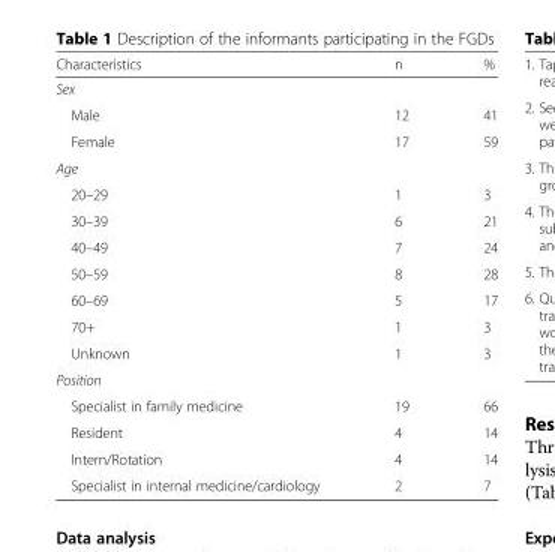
<table><thead><tr><td>Characteristics</td><td>n</td><td>%</td></tr></thead><tbody><tr><td colspan="3">Sex</td></tr><tr><td>Male</td><td>12</td><td>41</td></tr><tr><td>Female</td><td>17</td><td>59</td></tr><tr><td colspan="3">Age</td></tr><tr><td>20–29</td><td>1</td><td>3</td></tr><tr><td>30–39</td><td>6</td><td>21</td></tr><tr><td>40–49</td><td>7</td><td>24</td></tr><tr><td>50–59</td><td>8</td><td>28</td></tr><tr><td>60–69</td><td>5</td><td>17</td></tr><tr><td>70+</td><td>1</td><td>3</td></tr><tr><td>Unknown</td><td>1</td><td>3</td></tr><tr><td colspan="3">Position</td></tr><tr><td>Specialist in family medicine</td><td>19</td><td>66</td></tr><tr><td>Resident</td><td>4</td><td>14</td></tr><tr><td>Intern/Rotation</td><td>4</td><td>14</td></tr><tr><td>Specialist in internal medicine/cardiology</td><td>2</td><td>7</td></tr></tbody></table>